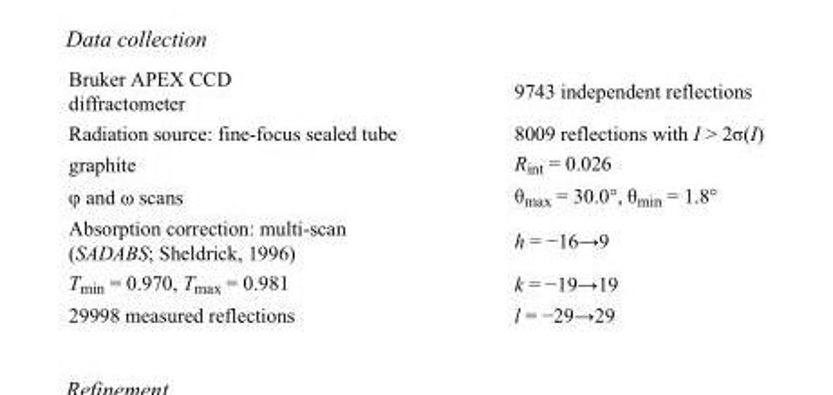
<table><tbody><tr><td>Bruker APEX CCD diffractometer</td><td>9743 independent reflections</td></tr><tr><td>Radiation source: fine-focus sealed tube</td><td>8009 reflections with I &gt; 2σ(I)</td></tr><tr><td>graphite</td><td>R<sub>int</sub> = 0.026</td></tr><tr><td>φ and ω scans</td><td>θ<sub>max</sub> = 30.0°, θ<sub>min</sub> = 1.8°</td></tr><tr><td>Absorption correction: multi-scan (SADABS; Sheldrick, 1996)</td><td>h = −16→9</td></tr><tr><td>T<sub>min</sub> = 0.970, T<sub>max</sub> = 0.981</td><td>k = −19→19</td></tr><tr><td>29998 measured reflections</td><td>l = −29→29</td></tr></tbody></table>